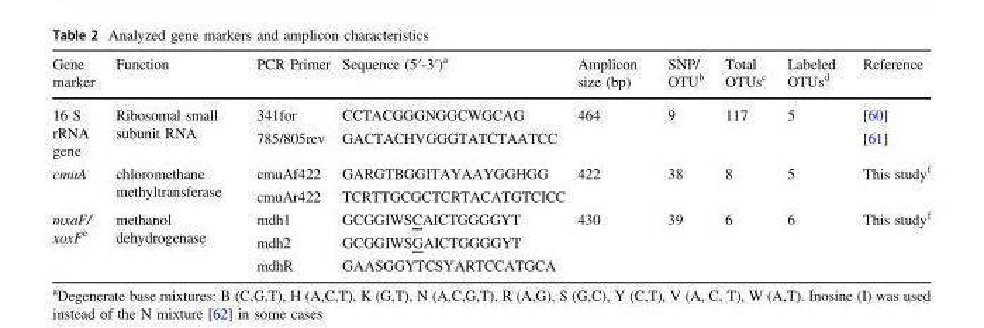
<table><thead><tr><td>Gene marker</td><td>Function</td><td>PCR Primer</td><td>Sequence (5′-3′)<sup>a</sup></td><td>Amplicon size (bp)</td><td>SNP/ OTU<sup>b</sup></td><td>Total OTUs<sup>c</sup></td><td>Labeled OTUs<sup>d</sup></td><td>Reference</td></tr></thead><tbody><tr><td rowspan="2">16 S rRNA gene</td><td rowspan="2">Ribosomal small subunit RNA</td><td>341for</td><td>CCTACGGGNGGCWGCAG</td><td rowspan="2">464</td><td rowspan="2">9</td><td rowspan="2">117</td><td rowspan="2">5</td><td>[60]</td></tr><tr><td>785/805rev</td><td>GACTACHVGGGTATCTAATCC</td><td>[61]</td></tr><tr><td rowspan="2">cmuA</td><td rowspan="2">chloromethane methyltransferase</td><td>cmuAf422</td><td>GARGTBGGITAYAAYGGHGG</td><td rowspan="2">422</td><td rowspan="2">38</td><td rowspan="2">8</td><td rowspan="2">5</td><td rowspan="2">This study<sup>f</sup></td></tr><tr><td>cmuAr422</td><td>TCRTTGCGCTCRTACATGTCICC</td></tr><tr><td rowspan="3">mxaF/ xoxF<sup>e</sup></td><td rowspan="3">methanol dehydrogenase</td><td>mdh1</td><td>GCGGIWSCAICTGGGGYT</td><td rowspan="3">430</td><td rowspan="3">39</td><td rowspan="3">6</td><td rowspan="3">6</td><td rowspan="3">This study<sup>f</sup></td></tr><tr><td>mdh2</td><td>GCGGIWSGAICTGGGGYT</td></tr><tr><td>mdhR</td><td>GAASGGYTCSYARTCCATGCA</td></tr></tbody></table>